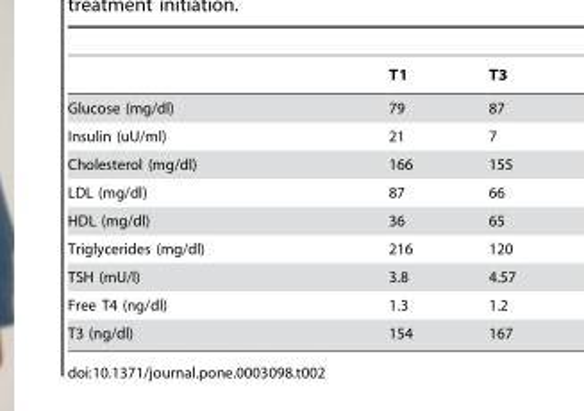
<table><thead><tr><td></td><td>T1</td><td>T3</td></tr></thead><tbody><tr><td>Glucose (mg/dl)</td><td>79</td><td>87</td></tr><tr><td>Insulin (uU/ml)</td><td>21</td><td>7</td></tr><tr><td>Cholesterol (mg/dl)</td><td>166</td><td>155</td></tr><tr><td>LDL (mg/dl)</td><td>87</td><td>66</td></tr><tr><td>HDL (mg/dl)</td><td>36</td><td>65</td></tr><tr><td>Triglycerides (mg/dl)</td><td>216</td><td>120</td></tr><tr><td>TSH (mU/l)</td><td>3.8</td><td>4.57</td></tr><tr><td>Free T4 (ng/dl)</td><td>1.3</td><td>1.2</td></tr><tr><td>T3 (ng/dl)</td><td>154</td><td>167</td></tr></tbody></table>